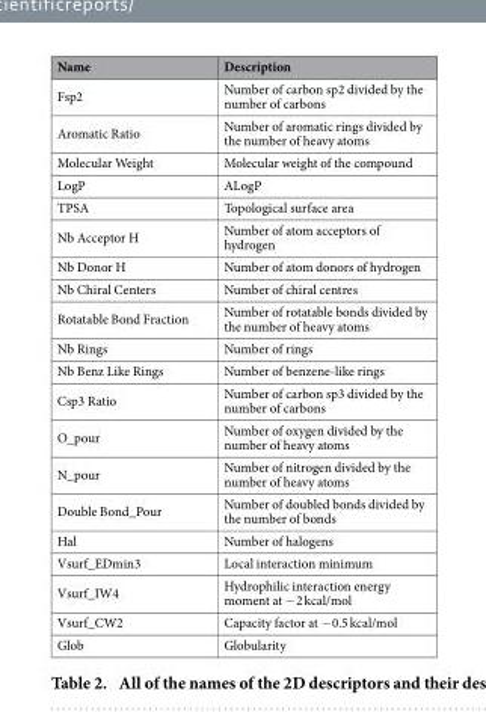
<table><thead><tr><td>Name</td><td>Description</td></tr></thead><tbody><tr><td>Fsp2</td><td>Number of carbon sp2 divided by the number of carbons</td></tr><tr><td>Aromatic Ratio</td><td>Number of aromatic rings divided by the number of heavy atoms</td></tr><tr><td>Molecular Weight</td><td>Molecular weight of the compound</td></tr><tr><td>LogP</td><td>ALogP</td></tr><tr><td>TPSA</td><td>Topological surface area</td></tr><tr><td>Nb Acceptor H</td><td>Number of atom acceptors of hydrogen</td></tr><tr><td>Nb Donor H</td><td>Number of atom donors of hydrogen</td></tr><tr><td>Nb Chiral Centers</td><td>Number of chiral centres</td></tr><tr><td>Rotatable Bond Fraction</td><td>Number of rotatable bonds divided by the number of heavy atoms</td></tr><tr><td>Nb Rings</td><td>Number of rings</td></tr><tr><td>Nb Benz Like Rings</td><td>Number of benzene-like rings</td></tr><tr><td>Csp3 Ratio</td><td>Number of carbon sp3 divided by the number of carbons</td></tr><tr><td>O_pour</td><td>Number of oxygen divided by the number of heavy atoms</td></tr><tr><td>N_pour</td><td>Number of nitrogen divided by the number of heavy atoms</td></tr><tr><td>Double Bond_Pour</td><td>Number of doubled bonds divided by the number of bonds</td></tr><tr><td>Hal</td><td>Number of halogens</td></tr><tr><td>Vsurf_EDmin3</td><td>Local interaction minimum</td></tr><tr><td>Vsurf_IW4</td><td>Hydrophilic interaction energy moment at − 2 kcal/mol</td></tr><tr><td>Vsurf_CW2</td><td>Capacity factor at − 0.5 kcal/mol</td></tr><tr><td>Glob</td><td>Globularity</td></tr></tbody></table>